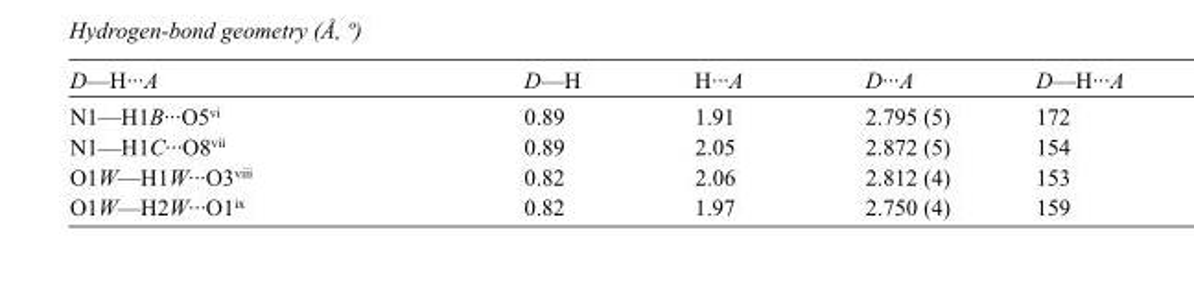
<table><tbody><tr><td>D—H···A</td><td>D—H</td><td>H···A</td><td>D···A</td><td>D—H···A</td></tr><tr><td>N1—H1B···O5<sup>vi</sup></td><td>0.89</td><td>1.91</td><td>2.795 (5)</td><td>172</td></tr><tr><td>N1—H1C···O8<sup>vii</sup></td><td>0.89</td><td>2.05</td><td>2.872 (5)</td><td>154</td></tr><tr><td>O1W—H1W···O3<sup>viii</sup></td><td>0.82</td><td>2.06</td><td>2.812 (4)</td><td>153</td></tr><tr><td>O1W—H2W···O1<sup>ix</sup></td><td>0.82</td><td>1.97</td><td>2.750 (4)</td><td>159</td></tr></tbody></table>